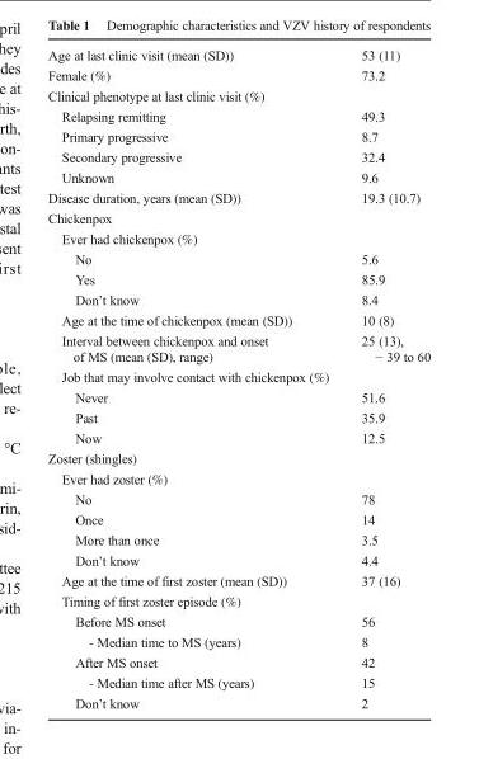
<table><tbody><tr><td>Age at last clinic visit (mean (SD))</td><td>53 (11)</td></tr><tr><td>Female (%)</td><td>73.2</td></tr><tr><td colspan="2">Clinical phenotype at last clinic visit (%)</td></tr><tr><td>Relapsing remitting</td><td>49.3</td></tr><tr><td>Primary progressive</td><td>8.7</td></tr><tr><td>Secondary progressive</td><td>32.4</td></tr><tr><td>Unknown</td><td>9.6</td></tr><tr><td>Disease duration, years (mean (SD))</td><td>19.3 (10.7)</td></tr><tr><td colspan="2">Chickenpox</td></tr><tr><td colspan="2">Ever had chickenpox (%)</td></tr><tr><td>No</td><td>5.6</td></tr><tr><td>Yes</td><td>85.9</td></tr><tr><td>Don’t know</td><td>8.4</td></tr><tr><td>Age at the time of chickenpox (mean (SD))</td><td>10 (8)</td></tr><tr><td>Interval between chickenpox and onset of MS (mean (SD), range)</td><td>25 (13), − 39 to 60</td></tr><tr><td colspan="2">Job that may involve contact with chickenpox (%)</td></tr><tr><td>Never</td><td>51.6</td></tr><tr><td>Past</td><td>35.9</td></tr><tr><td>Now</td><td>12.5</td></tr><tr><td colspan="2">Zoster (shingles)</td></tr><tr><td colspan="2">Ever had zoster (%)</td></tr><tr><td>No</td><td>78</td></tr><tr><td>Once</td><td>14</td></tr><tr><td>More than once</td><td>3.5</td></tr><tr><td>Don’t know</td><td>4.4</td></tr><tr><td>Age at the time of first zoster (mean (SD))</td><td>37 (16)</td></tr><tr><td colspan="2">Timing of first zoster episode (%)</td></tr><tr><td>Before MS onset</td><td>56</td></tr><tr><td>- Median time to MS (years)</td><td>8</td></tr><tr><td>After MS onset</td><td>42</td></tr><tr><td>- Median time after MS (years)</td><td>15</td></tr><tr><td>Don’t know</td><td>2</td></tr></tbody></table>